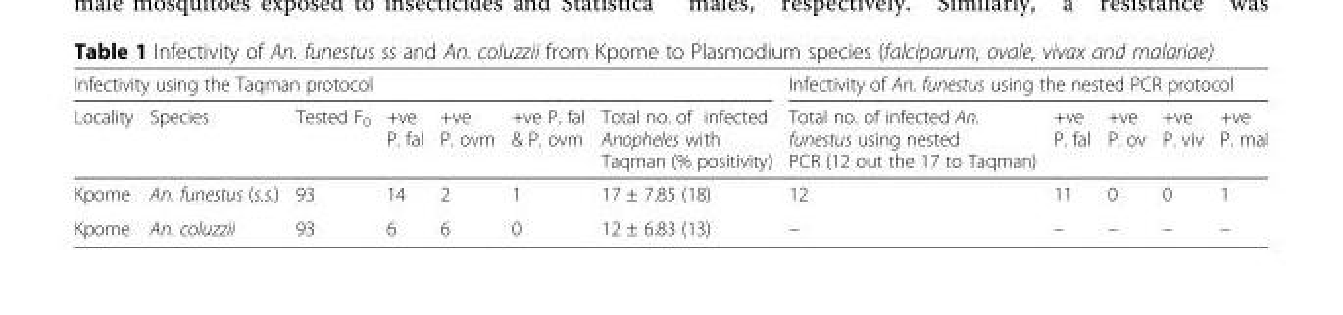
<table><thead><tr><td colspan="7">Infectivity using the Taqman protocol</td><td colspan="5">Infectivity of An. funestus using the nested PCR protocol</td></tr><tr><td>Locality</td><td>Species</td><td>Tested F<sub>0</sub></td><td>+ve P. fal</td><td>+ve P. ovm</td><td>+ve P. fal &amp; P. ovm</td><td>Total no. of infected Anopheles with Taqman (% positivity)</td><td>Total no. of infected An. funestus using nested PCR (12 out the 17 to Taqman)</td><td>+ve P. fal</td><td>+ve P. ov</td><td>+ve P. viv</td><td>+ve P. mal</td></tr></thead><tbody><tr><td>Kpome</td><td>An. funestus (s.s.)</td><td>93</td><td>14</td><td>2</td><td>1</td><td>17 ± 7.85 (18)</td><td>12</td><td>11</td><td>0</td><td>0</td><td>1</td></tr><tr><td>Kpome</td><td>An. coluzzii</td><td>93</td><td>6</td><td>6</td><td>0</td><td>12 ± 6.83 (13)</td><td>–</td><td>–</td><td>–</td><td>–</td><td>–</td></tr></tbody></table>